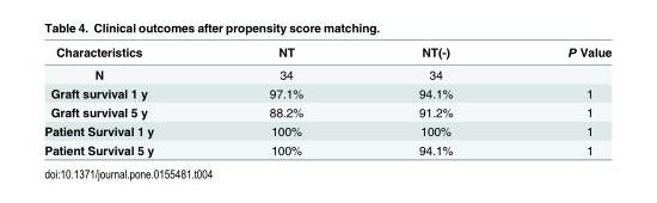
<table><thead><tr><td>Characteristics</td><td>NT</td><td>NT(-)</td><td>P Value</td></tr></thead><tbody><tr><td>N</td><td>34</td><td>34</td><td></td></tr><tr><td>Graft survival 1 y</td><td>97.1%</td><td>94.1%</td><td>1</td></tr><tr><td>Graft survival 5 y</td><td>88.2%</td><td>91.2%</td><td>1</td></tr><tr><td>Patient Survival 1 y</td><td>100%</td><td>100%</td><td>1</td></tr><tr><td>Patient Survival 5 y</td><td>100%</td><td>94.1%</td><td>1</td></tr></tbody></table>